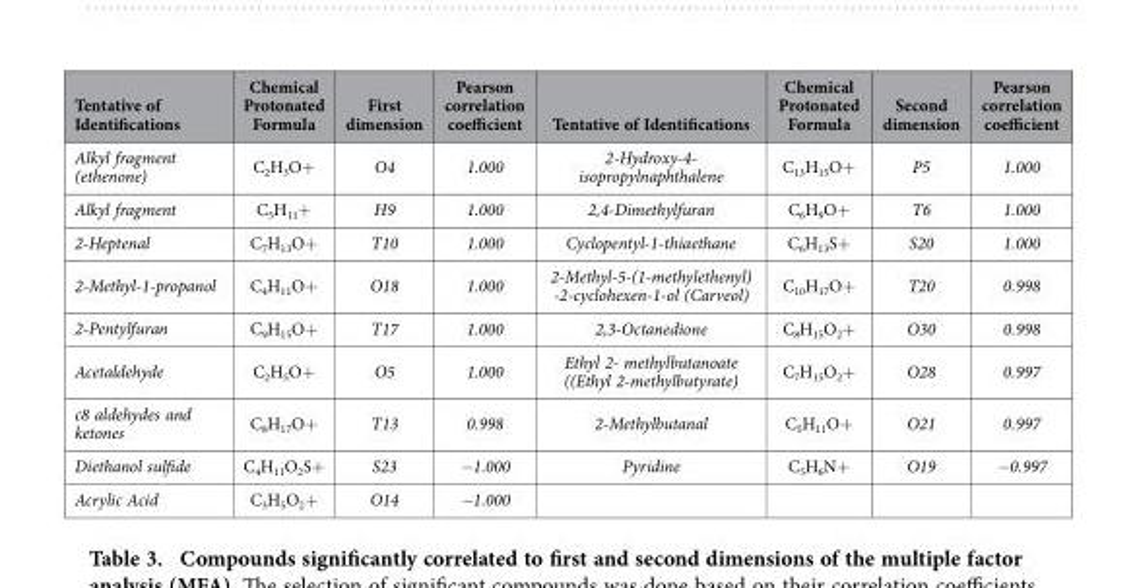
<table><thead><tr><td>Tentative of Identifications</td><td>Chemical Protonated Formula</td><td>First dimension</td><td>Pearson correlation coefficient</td><td>Tentative of Identifications</td><td>Chemical Protonated Formula</td><td>Second dimension</td><td>Pearson correlation coefficient</td></tr></thead><tbody><tr><td>Alkyl fragment (ethenone)</td><td>C<sub>2</sub>H<sub>3</sub>O+</td><td>O4</td><td>1.000</td><td>2-Hydroxy-4- isopropylnaphthalene</td><td>C<sub>13</sub>H<sub>15</sub>O+</td><td>P5</td><td>1.000</td></tr><tr><td>Alkyl fragment</td><td>C<sub>5</sub>H<sub>11</sub>+</td><td>H9</td><td>1.000</td><td>2,4-Dimethylfuran</td><td>C<sub>6</sub>H<sub>9</sub>O+</td><td>T6</td><td>1.000</td></tr><tr><td>2-Heptenal</td><td>C<sub>7</sub>H<sub>13</sub>O+</td><td>T10</td><td>1.000</td><td>Cyclopentyl-1-thiaethane</td><td>C<sub>6</sub>H<sub>13</sub>S+</td><td>S20</td><td>1.000</td></tr><tr><td>2-Methyl-1-propanol</td><td>C<sub>4</sub>H<sub>11</sub>O+</td><td>O18</td><td>1.000</td><td>2-Methyl-5-(1-methylethenyl) -2-cyclohexen-1-ol (Carveol)</td><td>C<sub>10</sub>H<sub>17</sub>O+</td><td>T20</td><td>0.998</td></tr><tr><td>2-Pentylfuran</td><td>C<sub>9</sub>H<sub>15</sub>O+</td><td>T17</td><td>1.000</td><td>2,3-Octanedione</td><td>C<sub>8</sub>H<sub>15</sub>O<sub>2</sub>+</td><td>O30</td><td>0.998</td></tr><tr><td>Acetaldehyde</td><td>C<sub>2</sub>H<sub>5</sub>O+</td><td>O5</td><td>1.000</td><td>Ethyl 2- methylbutanoate ((Ethyl 2-methylbutyrate)</td><td>C<sub>7</sub>H<sub>15</sub>O<sub>2</sub>+</td><td>O28</td><td>0.997</td></tr><tr><td>c8 aldehydes and ketones</td><td>C<sub>8</sub>H<sub>17</sub>O+</td><td>T13</td><td>0.998</td><td>2-Methylbutanal</td><td>C<sub>5</sub>H<sub>11</sub>O+</td><td>O21</td><td>0.997</td></tr><tr><td>Diethanol sulfide</td><td>C<sub>4</sub>H<sub>11</sub>O<sub>2</sub>S+</td><td>S23</td><td>−1.000</td><td>Pyridine</td><td>C<sub>5</sub>H<sub>6</sub>N+</td><td>O19</td><td>−0.997</td></tr><tr><td>Acrylic Acid</td><td>C<sub>3</sub>H<sub>5</sub>O<sub>2</sub>+</td><td>O14</td><td>−1.000</td><td></td><td></td><td></td><td></td></tr></tbody></table>